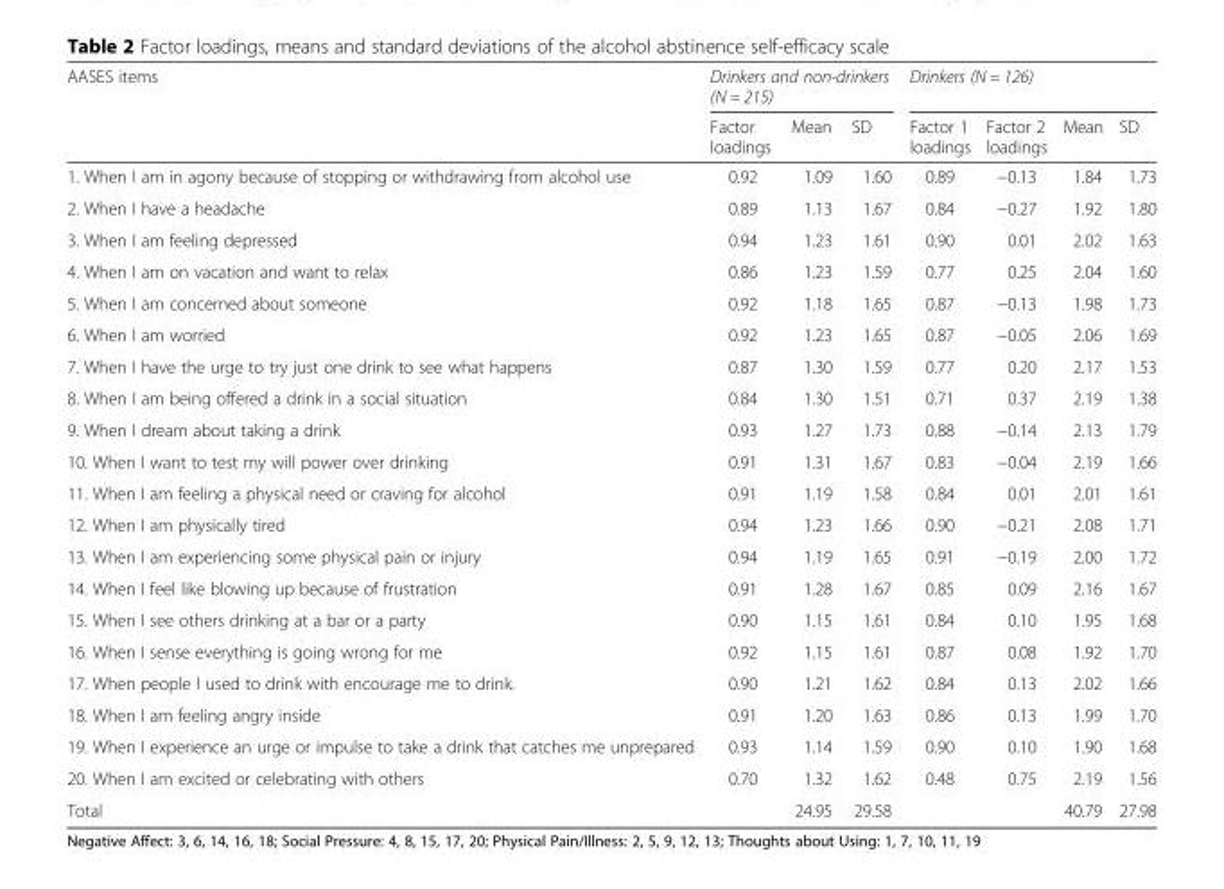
<table><thead><tr><td rowspan="2">AASES items</td><td colspan="3">Drinkers and non-drinkers (N = 215)</td><td colspan="4">Drinkers (N = 126)</td></tr><tr><td>Factor loadings</td><td>Mean</td><td>SD</td><td>Factor 1 loadings</td><td>Factor 2 loadings</td><td>Mean</td><td>SD</td></tr></thead><tbody><tr><td>1. When I am in agony because of stopping or withdrawing from alcohol use</td><td>0.92</td><td>1.09</td><td>1.60</td><td>0.89</td><td>−0.13</td><td>1.84</td><td>1.73</td></tr><tr><td>2. When I have a headache</td><td>0.89</td><td>1.13</td><td>1.67</td><td>0.84</td><td>−0.27</td><td>1.92</td><td>1.80</td></tr><tr><td>3. When I am feeling depressed</td><td>0.94</td><td>1.23</td><td>1.61</td><td>0.90</td><td>0.01</td><td>2.02</td><td>1.63</td></tr><tr><td>4. When I am on vacation and want to relax</td><td>0.86</td><td>1.23</td><td>1.59</td><td>0.77</td><td>0.25</td><td>2.04</td><td>1.60</td></tr><tr><td>5. When I am concerned about someone</td><td>0.92</td><td>1.18</td><td>1.65</td><td>0.87</td><td>−0.13</td><td>1.98</td><td>1.73</td></tr><tr><td>6. When I am worried</td><td>0.92</td><td>1.23</td><td>1.65</td><td>0.87</td><td>−0.05</td><td>2.06</td><td>1.69</td></tr><tr><td>7. When I have the urge to try just one drink to see what happens</td><td>0.87</td><td>1.30</td><td>1.59</td><td>0.77</td><td>0.20</td><td>2.17</td><td>1.53</td></tr><tr><td>8. When I am being offered a drink in a social situation</td><td>0.84</td><td>1.30</td><td>1.51</td><td>0.71</td><td>0.37</td><td>2.19</td><td>1.38</td></tr><tr><td>9. When I dream about taking a drink</td><td>0.93</td><td>1.27</td><td>1.73</td><td>0.88</td><td>−0.14</td><td>2.13</td><td>1.79</td></tr><tr><td>10. When I want to test my will power over drinking</td><td>0.91</td><td>1.31</td><td>1.67</td><td>0.83</td><td>−0.04</td><td>2.19</td><td>1.66</td></tr><tr><td>11. When I am feeling a physical need or craving for alcohol</td><td>0.91</td><td>1.19</td><td>1.58</td><td>0.84</td><td>0.01</td><td>2.01</td><td>1.61</td></tr><tr><td>12. When I am physically tired</td><td>0.94</td><td>1.23</td><td>1.66</td><td>0.90</td><td>−0.21</td><td>2.08</td><td>1.71</td></tr><tr><td>13. When I am experiencing some physical pain or injury</td><td>0.94</td><td>1.19</td><td>1.65</td><td>0.91</td><td>−0.19</td><td>2.00</td><td>1.72</td></tr><tr><td>14. When I feel like blowing up because of frustration</td><td>0.91</td><td>1.28</td><td>1.67</td><td>0.85</td><td>0.09</td><td>2.16</td><td>1.67</td></tr><tr><td>15. When I see others drinking at a bar or a party</td><td>0.90</td><td>1.15</td><td>1.61</td><td>0.84</td><td>0.10</td><td>1.95</td><td>1.68</td></tr><tr><td>16. When I sense everything is going wrong for me</td><td>0.92</td><td>1.15</td><td>1.61</td><td>0.87</td><td>0.08</td><td>1.92</td><td>1.70</td></tr><tr><td>17. When people I used to drink with encourage me to drink.</td><td>0.90</td><td>1.21</td><td>1.62</td><td>0.84</td><td>0.13</td><td>2.02</td><td>1.66</td></tr><tr><td>18. When I am feeling angry inside</td><td>0.91</td><td>1.20</td><td>1.63</td><td>0.86</td><td>0.13</td><td>1.99</td><td>1.70</td></tr><tr><td>19. When I experience an urge or impulse to take a drink that catches me unprepared</td><td>0.93</td><td>1.14</td><td>1.59</td><td>0.90</td><td>0.10</td><td>1.90</td><td>1.68</td></tr><tr><td>20. When I am excited or celebrating with others</td><td>0.70</td><td>1.32</td><td>1.62</td><td>0.48</td><td>0.75</td><td>2.19</td><td>1.56</td></tr><tr><td>Total</td><td></td><td>24.95</td><td>29.58</td><td></td><td></td><td>40.79</td><td>27.98</td></tr></tbody></table>